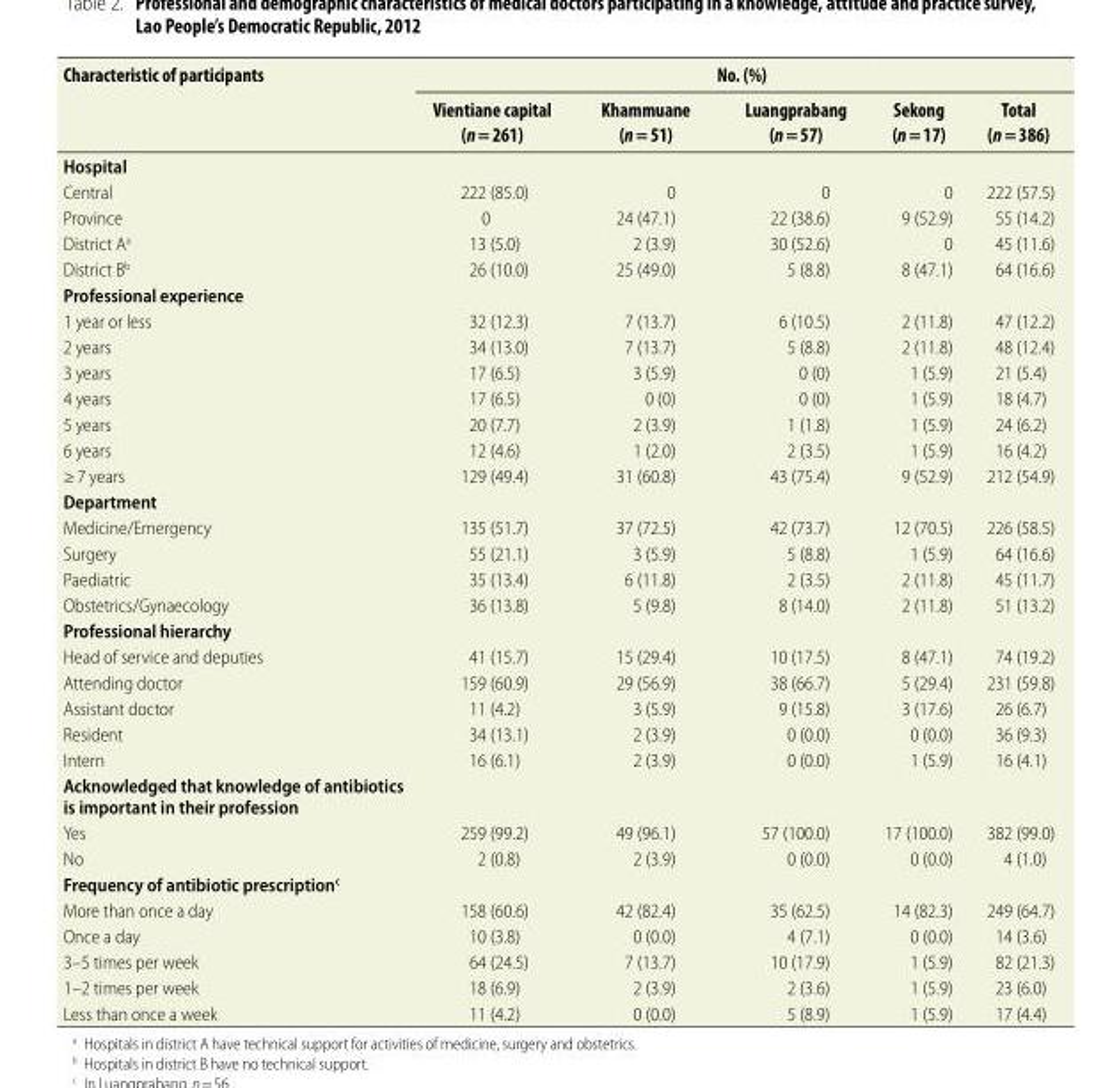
<table><thead><tr><td rowspan="2">Characteristic of participants</td><td colspan="5">No. (%)</td></tr><tr><td>Vientiane capital (n = 261)</td><td>Khammuane (n = 51)</td><td>Luangprabang (n = 57)</td><td>Sekong (n = 17)</td><td>Total (n = 386)</td></tr></thead><tbody><tr><td colspan="6">Hospital</td></tr><tr><td>Central</td><td>222 (85.0)</td><td>0</td><td>0</td><td>0</td><td>222 (57.5)</td></tr><tr><td>Province</td><td>0</td><td>24 (47.1)</td><td>22 (38.6)</td><td>9 (52.9)</td><td>55 (14.2)</td></tr><tr><td>District A<sup>a</sup></td><td>13 (5.0)</td><td>2 (3.9)</td><td>30 (52.6)</td><td>0</td><td>45 (11.6)</td></tr><tr><td>District B<sup>b</sup></td><td>26 (10.0)</td><td>25 (49.0)</td><td>5 (8.8)</td><td>8 (47.1)</td><td>64 (16.6)</td></tr><tr><td colspan="6">Professional experience</td></tr><tr><td>1 year or less</td><td>32 (12.3)</td><td>7 (13.7)</td><td>6 (10.5)</td><td>2 (11.8)</td><td>47 (12.2)</td></tr><tr><td>2 years</td><td>34 (13.0)</td><td>7 (13.7)</td><td>5 (8.8)</td><td>2 (11.8)</td><td>48 (12.4)</td></tr><tr><td>3 years</td><td>17 (6.5)</td><td>3 (5.9)</td><td>0 (0)</td><td>1 (5.9)</td><td>21 (5.4)</td></tr><tr><td>4 years</td><td>17 (6.5)</td><td>0 (0)</td><td>0 (0)</td><td>1 (5.9)</td><td>18 (4.7)</td></tr><tr><td>5 years</td><td>20 (7.7)</td><td>2 (3.9)</td><td>1 (1.8)</td><td>1 (5.9)</td><td>24 (6.2)</td></tr><tr><td>6 years</td><td>12 (4.6)</td><td>1 (2.0)</td><td>2 (3.5)</td><td>1 (5.9)</td><td>16 (4.2)</td></tr><tr><td>≥ 7 years</td><td>129 (49.4)</td><td>31 (60.8)</td><td>43 (75.4)</td><td>9 (52.9)</td><td>212 (54.9)</td></tr><tr><td colspan="6">Department</td></tr><tr><td>Medicine/Emergency</td><td>135 (51.7)</td><td>37 (72.5)</td><td>42 (73.7)</td><td>12 (70.5)</td><td>226 (58.5)</td></tr><tr><td>Surgery</td><td>55 (21.1)</td><td>3 (5.9)</td><td>5 (8.8)</td><td>1 (5.9)</td><td>64 (16.6)</td></tr><tr><td>Paediatric</td><td>35 (13.4)</td><td>6 (11.8)</td><td>2 (3.5)</td><td>2 (11.8)</td><td>45 (11.7)</td></tr><tr><td>Obstetrics/Gynaecology</td><td>36 (13.8)</td><td>5 (9.8)</td><td>8 (14.0)</td><td>2 (11.8)</td><td>51 (13.2)</td></tr><tr><td colspan="6">Professional hierarchy</td></tr><tr><td>Head of service and deputies</td><td>41 (15.7)</td><td>15 (29.4)</td><td>10 (17.5)</td><td>8 (47.1)</td><td>74 (19.2)</td></tr><tr><td>Attending doctor</td><td>159 (60.9)</td><td>29 (56.9)</td><td>38 (66.7)</td><td>5 (29.4)</td><td>231 (59.8)</td></tr><tr><td>Assistant doctor</td><td>11 (4.2)</td><td>3 (5.9)</td><td>9 (15.8)</td><td>3 (17.6)</td><td>26 (6.7)</td></tr><tr><td>Resident</td><td>34 (13.1)</td><td>2 (3.9)</td><td>0 (0.0)</td><td>0 (0.0)</td><td>36 (9.3)</td></tr><tr><td>Intern</td><td>16 (6.1)</td><td>2 (3.9)</td><td>0 (0.0)</td><td>1 (5.9)</td><td>16 (4.1)</td></tr><tr><td colspan="6">Acknowledged that knowledge of antibiotics is important in their profession</td></tr><tr><td>Yes</td><td>259 (99.2)</td><td>49 (96.1)</td><td>57 (100.0)</td><td>17 (100.0)</td><td>382 (99.0)</td></tr><tr><td>No</td><td>2 (0.8)</td><td>2 (3.9)</td><td>0 (0.0)</td><td>0 (0.0)</td><td>4 (1.0)</td></tr><tr><td colspan="6">Frequency of antibiotic prescription<sup>c</sup></td></tr><tr><td>More than once a day</td><td>158 (60.6)</td><td>42 (82.4)</td><td>35 (62.5)</td><td>14 (82.3)</td><td>249 (64.7)</td></tr><tr><td>Once a day</td><td>10 (3.8)</td><td>0 (0.0)</td><td>4 (7.1)</td><td>0 (0.0)</td><td>14 (3.6)</td></tr><tr><td>3–5 times per week</td><td>64 (24.5)</td><td>7 (13.7)</td><td>10 (17.9)</td><td>1 (5.9)</td><td>82 (21.3)</td></tr><tr><td>1–2 times per week</td><td>18 (6.9)</td><td>2 (3.9)</td><td>2 (3.6)</td><td>1 (5.9)</td><td>23 (6.0)</td></tr><tr><td>Less than once a week</td><td>11 (4.2)</td><td>0 (0.0)</td><td>5 (8.9)</td><td>1 (5.9)</td><td>17 (4.4)</td></tr></tbody></table>